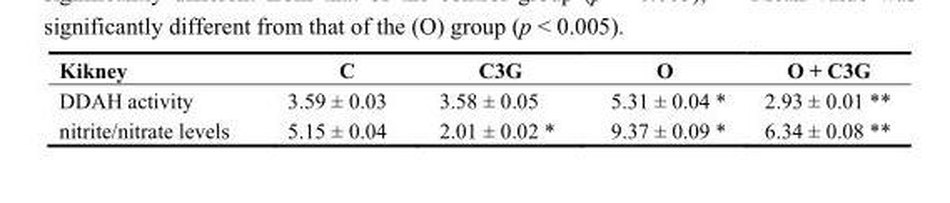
<table><thead><tr><td>Kikney</td><td>C</td><td>C3G</td><td>O</td><td>O + C3G</td></tr></thead><tbody><tr><td>DDAH activity</td><td>3.59 ± 0.03</td><td>3.58 ± 0.05</td><td>5.31 ± 0.04 *</td><td>2.93 ± 0.01 **</td></tr><tr><td>nitrite/nitrate levels</td><td>5.15 ± 0.04</td><td>2.01 ± 0.02 *</td><td>9.37 ± 0.09 *</td><td>6.34 ± 0.08 **</td></tr></tbody></table>